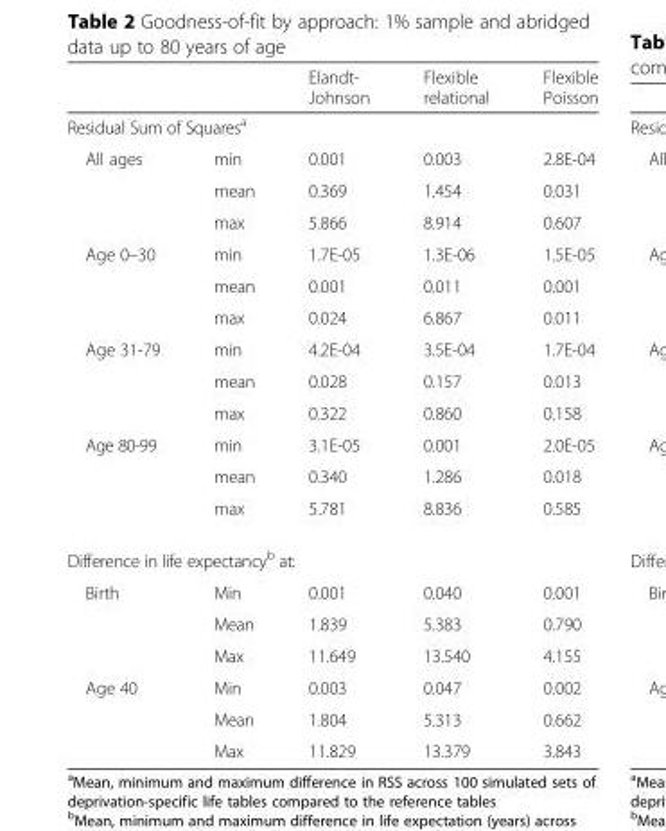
<table><thead><tr><td></td><td></td><td>Elandt- Johnson</td><td>Flexible relational</td><td>Flexible Poisson</td></tr></thead><tbody><tr><td colspan="5">Residual Sum of Squares<sup>a</sup></td></tr><tr><td rowspan="3">All ages</td><td>min</td><td>0.001</td><td>0.003</td><td>2.8E-04</td></tr><tr><td>mean</td><td>0.369</td><td>1.454</td><td>0.031</td></tr><tr><td>max</td><td>5.866</td><td>8.914</td><td>0.607</td></tr><tr><td rowspan="3">Age 0–30</td><td>min</td><td>1.7E-05</td><td>1.3E-06</td><td>1.5E-05</td></tr><tr><td>mean</td><td>0.001</td><td>0.011</td><td>0.001</td></tr><tr><td>max</td><td>0.024</td><td>6.867</td><td>0.011</td></tr><tr><td rowspan="3">Age 31-79</td><td>min</td><td>4.2E-04</td><td>3.5E-04</td><td>1.7E-04</td></tr><tr><td>mean</td><td>0.028</td><td>0.157</td><td>0.013</td></tr><tr><td>max</td><td>0.322</td><td>0.860</td><td>0.158</td></tr><tr><td rowspan="3">Age 80-99</td><td>min</td><td>3.1E-05</td><td>0.001</td><td>2.0E-05</td></tr><tr><td>mean</td><td>0.340</td><td>1.286</td><td>0.018</td></tr><tr><td>max</td><td>5.781</td><td>8.836</td><td>0.585</td></tr><tr><td colspan="5">Difference in life expectancy<sup>b</sup> at:</td></tr><tr><td rowspan="3">Birth</td><td>Min</td><td>0.001</td><td>0.040</td><td>0.001</td></tr><tr><td>Mean</td><td>1.839</td><td>5.383</td><td>0.790</td></tr><tr><td>Max</td><td>11.649</td><td>13.540</td><td>4.155</td></tr><tr><td rowspan="3">Age 40</td><td>Min</td><td>0.003</td><td>0.047</td><td>0.002</td></tr><tr><td>Mean</td><td>1.804</td><td>5.313</td><td>0.662</td></tr><tr><td>Max</td><td>11.829</td><td>13.379</td><td>3.843</td></tr></tbody></table>